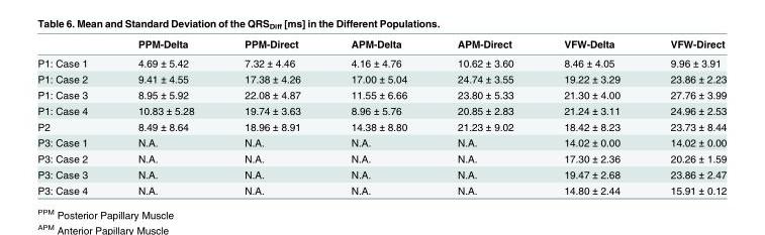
<table><thead><tr><td></td><td>PPM-Delta</td><td>PPM-Direct</td><td>APM-Delta</td><td>APM-Direct</td><td>VFW-Delta</td><td>VFW-Direct</td></tr></thead><tbody><tr><td>P1: Case 1</td><td>4.69 ± 5.42</td><td>7.32 ± 4.46</td><td>4.16 ± 4.76</td><td>10.62 ± 3.60</td><td>8.46 ± 4.05</td><td>9.96 ± 3.91</td></tr><tr><td>P1: Case 2</td><td>9.41 ± 4.55</td><td>17.38 ± 4.26</td><td>17.00 ± 5.04</td><td>24.74 ± 3.55</td><td>19.22 ± 3.29</td><td>23.86 ± 2.23</td></tr><tr><td>P1: Case 3</td><td>8.95 ± 5.92</td><td>22.08 ± 4.87</td><td>11.55 ± 6.66</td><td>23.80 ± 5.33</td><td>21.30 ± 4.00</td><td>27.76 ± 3.99</td></tr><tr><td>P1: Case 4</td><td>10.83 ± 5.28</td><td>19.74 ± 3.63</td><td>8.96 ± 5.76</td><td>20.85 ± 2.83</td><td>21.24 ± 3.11</td><td>24.96 ± 2.53</td></tr><tr><td>P2</td><td>8.49 ± 8.64</td><td>18.96 ± 8.91</td><td>14.38 ± 8.80</td><td>21.23 ± 9.02</td><td>18.42 ± 8.23</td><td>23.73 ± 8.44</td></tr><tr><td>P3: Case 1</td><td>N.A.</td><td>N.A.</td><td>N.A.</td><td>N.A.</td><td>14.02 ± 0.00</td><td>14.02 ± 0.00</td></tr><tr><td>P3: Case 2</td><td>N.A.</td><td>N.A.</td><td>N.A.</td><td>N.A.</td><td>17.30 ± 2.36</td><td>20.26 ± 1.59</td></tr><tr><td>P3: Case 3</td><td>N.A.</td><td>N.A.</td><td>N.A.</td><td>N.A.</td><td>19.47 ± 2.68</td><td>23.86 ± 2.47</td></tr><tr><td>P3: Case 4</td><td>N.A.</td><td>N.A.</td><td>N.A.</td><td>N.A.</td><td>14.80 ± 2.44</td><td>15.91 ± 0.12</td></tr></tbody></table>